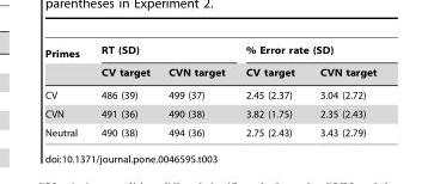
<table><thead><tr><td rowspan="2">Primes</td><td colspan="2">RT (SD)</td><td colspan="2">% Error rate (SD)</td></tr><tr><td>CV target</td><td>CVN target</td><td>CV target</td><td>CVN target</td></tr></thead><tbody><tr><td>CV</td><td>486 (39)</td><td>499 (37)</td><td>2.45 (2.37)</td><td>3.04 (2.72)</td></tr><tr><td>CVN</td><td>491 (36)</td><td>490 (38)</td><td>3.82 (1.75)</td><td>2.35 (2.43)</td></tr><tr><td>Neutral</td><td>490 (38)</td><td>494 (36)</td><td>2.75 (2.43)</td><td>3.43 (2.79)</td></tr></tbody></table>